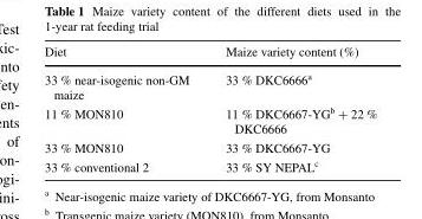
<table><thead><tr><td>Diet</td><td>Maize variety content (%)</td></tr></thead><tbody><tr><td>33 % near-isogenic non-GM maize</td><td>33 % DKC6666<sup>a</sup></td></tr><tr><td>11 % MON810</td><td>11 % DKC6667-YG<sup>b</sup> + 22 % DKC6666</td></tr><tr><td>33 % MON810</td><td>33 % DKC6667-YG</td></tr><tr><td>33 % conventional 2</td><td>33 % SY NEPAL<sup>c</sup></td></tr></tbody></table>